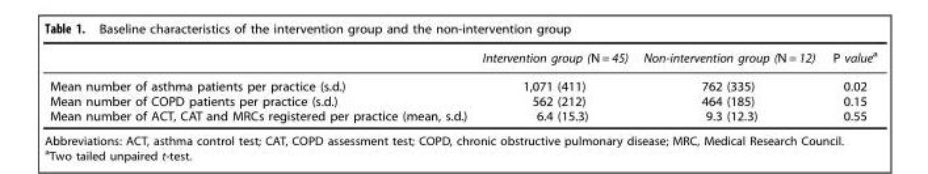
<table><thead><tr><td></td><td>Intervention group (N = 45)</td><td>Non-intervention group (N = 12)</td><td>P value<sup>a</sup></td></tr></thead><tbody><tr><td>Mean number of asthma patients per practice (s.d.)</td><td>1,071 (411)</td><td>762 (335)</td><td>0.02</td></tr><tr><td>Mean number of COPD patients per practice (s.d.)</td><td>562 (212)</td><td>464 (185)</td><td>0.15</td></tr><tr><td>Mean number of ACT, CAT and MRCs registered per practice (mean, s.d.)</td><td>6.4 (15.3)</td><td>9.3 (12.3)</td><td>0.55</td></tr></tbody></table>